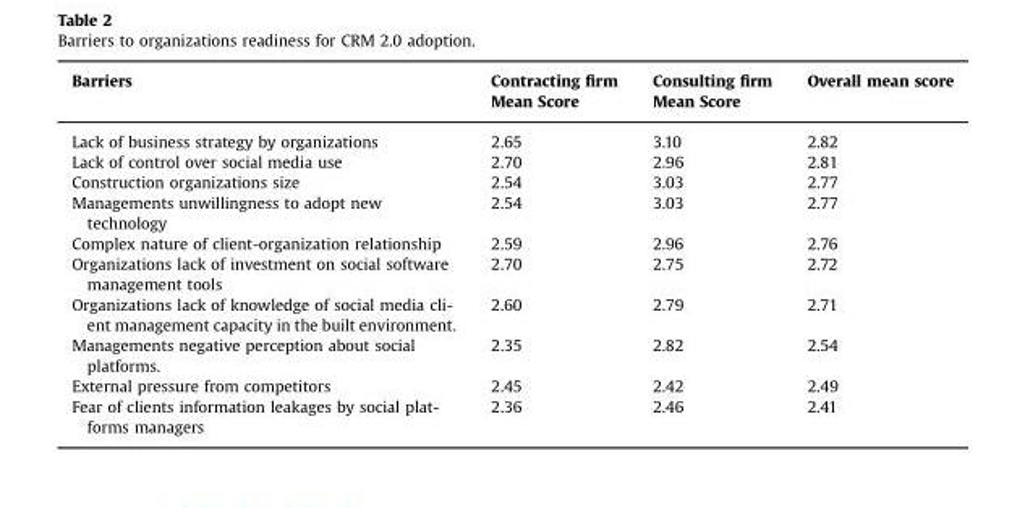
<table><thead><tr><td rowspan="2">Barriers</td><td rowspan="2">Contracting firm Mean Score</td><td rowspan="2">Consulting firm Mean Score</td><td rowspan="2">Overall mean score</td></tr><tr></tr></thead><tbody><tr><td>Lack of business strategy by organizations</td><td>2.65</td><td>3.10</td><td>2.82</td></tr><tr><td>Lack of control over social media use</td><td>2.70</td><td>2.96</td><td>2.81</td></tr><tr><td>Construction organizations size</td><td>2.54</td><td>3.03</td><td>2.77</td></tr><tr><td>Managements unwillingness to adopt new technology</td><td>2.54</td><td>3.03</td><td>2.77</td></tr><tr><td>Complex nature of client-organization relationship</td><td>2.59</td><td>2.96</td><td>2.76</td></tr><tr><td>Organizations lack of investment on social software management tools</td><td>2.70</td><td>2.75</td><td>2.72</td></tr><tr><td>Organizations lack of knowledge of social media cli- ent management capacity in the built environment.</td><td>2.60</td><td>2.79</td><td>2.71</td></tr><tr><td>Managements negative perception about social platforms.</td><td>2.35</td><td>2.82</td><td>2.54</td></tr><tr><td>External pressure from competitors</td><td>2.45</td><td>2.42</td><td>2.49</td></tr><tr><td>Fear of clients information leakages by social plat- forms managers</td><td>2.36</td><td>2.46</td><td>2.41</td></tr></tbody></table>